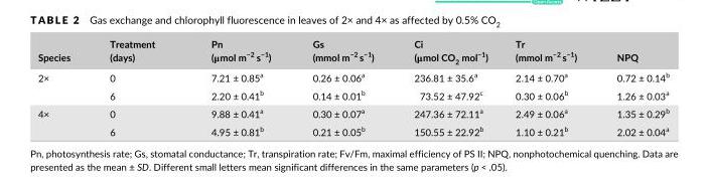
<table><thead><tr><td>Species</td><td>Treatment (days)</td><td>Pn (μmol m<sup>−2</sup> s<sup>−1</sup>)</td><td>Gs (mmol m<sup>−2</sup> s<sup>−1</sup>)</td><td>Ci (μmol CO<sub>2</sub> mol<sup>−1</sup>)</td><td>Tr (mmol m<sup>−2</sup> s<sup>−1</sup>)</td><td>NPQ</td></tr></thead><tbody><tr><td rowspan="2">2×</td><td>0</td><td>7.21 ± 0.85<sup>a</sup></td><td>0.26 ± 0.06<sup>a</sup></td><td>236.81 ± 35.6<sup>a</sup></td><td>2.14 ± 0.70<sup>a</sup></td><td>0.72 ± 0.14<sup>b</sup></td></tr><tr><td>6</td><td>2.20 ± 0.41<sup>b</sup></td><td>0.14 ± 0.01<sup>b</sup></td><td>73.52 ± 47.92<sup>c</sup></td><td>0.30 ± 0.06<sup>b</sup></td><td>1.26 ± 0.03<sup>a</sup></td></tr><tr><td rowspan="2">4×</td><td>0</td><td>9.88 ± 0.41<sup>a</sup></td><td>0.30 ± 0.07<sup>a</sup></td><td>247.36 ± 72.11<sup>a</sup></td><td>2.49 ± 0.06<sup>a</sup></td><td>1.35 ± 0.29<sup>b</sup></td></tr><tr><td>6</td><td>4.95 ± 0.81<sup>b</sup></td><td>0.21 ± 0.05<sup>b</sup></td><td>150.55 ± 22.92<sup>b</sup></td><td>1.10 ± 0.21<sup>b</sup></td><td>2.02 ± 0.04<sup>a</sup></td></tr></tbody></table>